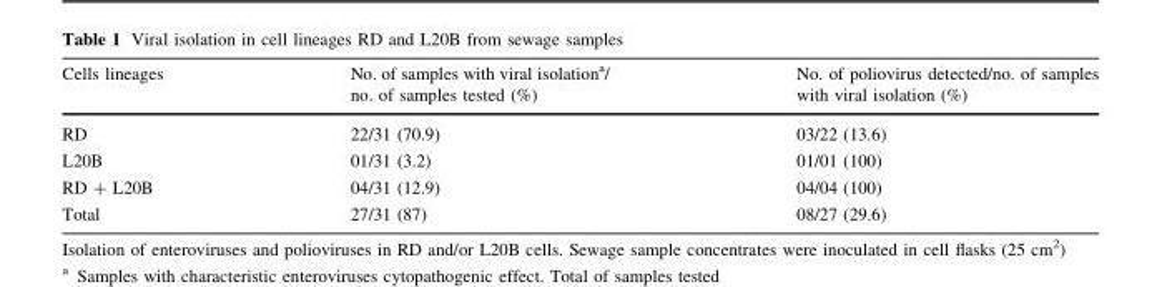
<table><thead><tr><td>Cells lineages</td><td>No. of samples with viral isolation<sup>a</sup>/ no. of samples tested (%)</td><td>No. of poliovirus detected/no. of samples with viral isolation (%)</td></tr></thead><tbody><tr><td>RD</td><td>22/31 (70.9)</td><td>03/22 (13.6)</td></tr><tr><td>L20B</td><td>01/31 (3.2)</td><td>01/01 (100)</td></tr><tr><td>RD + L20B</td><td>04/31 (12.9)</td><td>04/04 (100)</td></tr><tr><td>Total</td><td>27/31 (87)</td><td>08/27 (29.6)</td></tr></tbody></table>